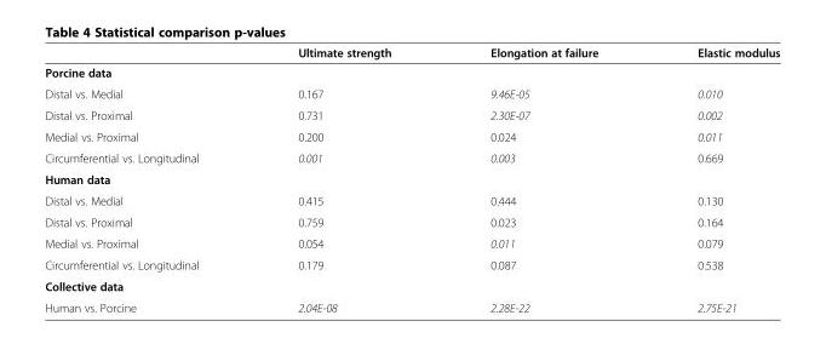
<table><thead><tr><td></td><td>Ultimate strength</td><td>Elongation at failure</td><td>Elastic modulus</td></tr></thead><tbody><tr><td colspan="4">Porcine data</td></tr><tr><td>Distal vs. Medial</td><td>0.167</td><td>9.46E-05</td><td>0.010</td></tr><tr><td>Distal vs. Proximal</td><td>0.731</td><td>2.30E-07</td><td>0.002</td></tr><tr><td>Medial vs. Proximal</td><td>0.200</td><td>0.024</td><td>0.011</td></tr><tr><td>Circumferential vs. Longitudinal</td><td>0.001</td><td>0.003</td><td>0.669</td></tr><tr><td colspan="4">Human data</td></tr><tr><td>Distal vs. Medial</td><td>0.415</td><td>0.444</td><td>0.130</td></tr><tr><td>Distal vs. Proximal</td><td>0.759</td><td>0.023</td><td>0.164</td></tr><tr><td>Medial vs. Proximal</td><td>0.054</td><td>0.011</td><td>0.079</td></tr><tr><td>Circumferential vs. Longitudinal</td><td>0.179</td><td>0.087</td><td>0.538</td></tr><tr><td colspan="4">Collective data</td></tr><tr><td>Human vs. Porcine</td><td>2.04E-08</td><td>2.28E-22</td><td>2.75E-21</td></tr></tbody></table>